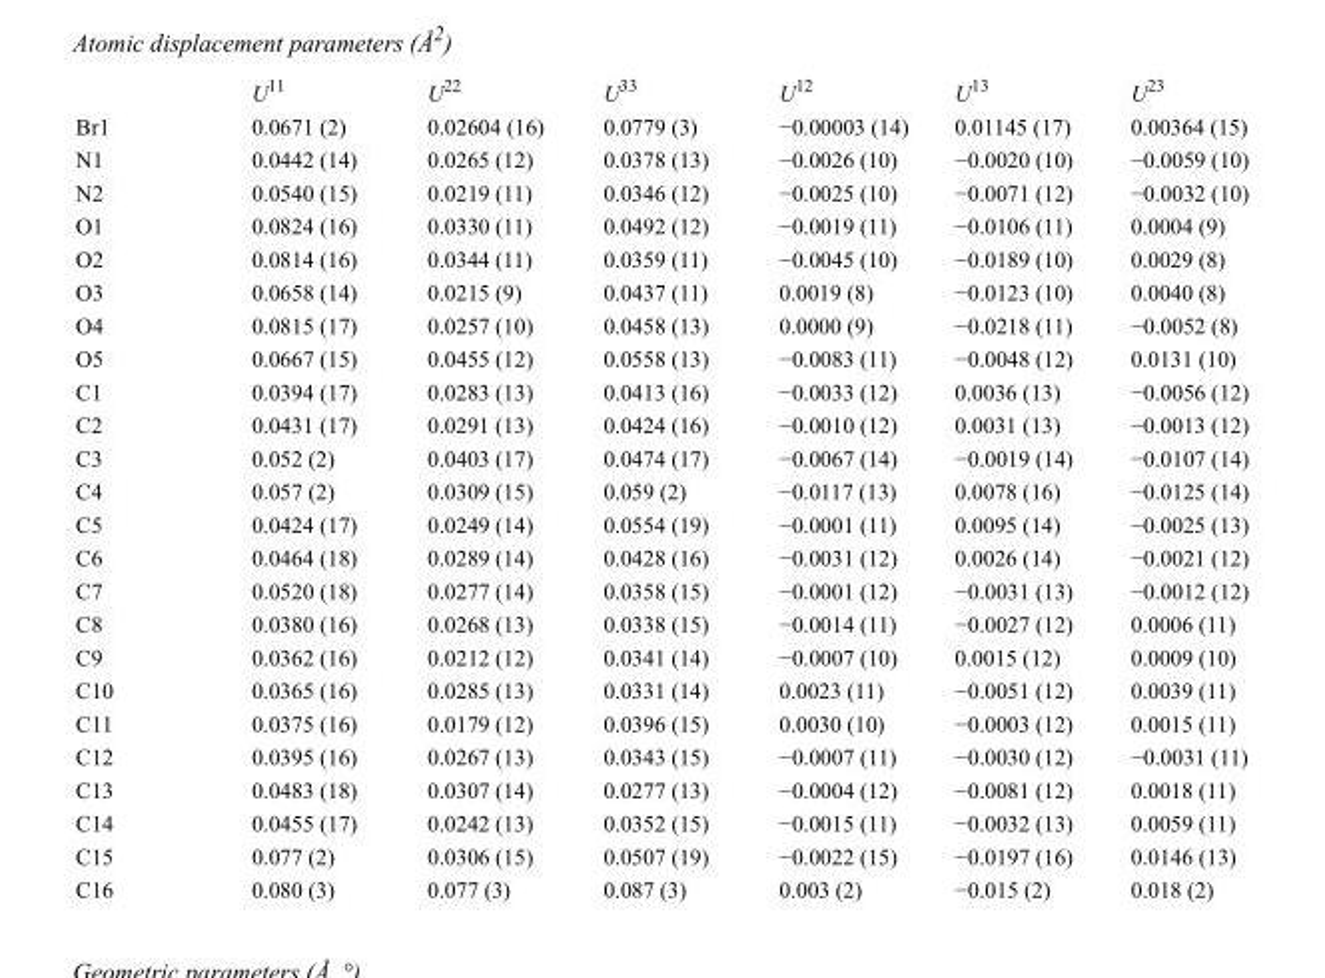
<table><thead><tr><td></td><td>U<sup>11</sup></td><td>U<sup>22</sup></td><td>U<sup>33</sup></td><td>U<sup>12</sup></td><td>U<sup>13</sup></td><td>U<sup>23</sup></td></tr></thead><tbody><tr><td>Br1</td><td>0.0671 (2)</td><td>0.02604 (16)</td><td>0.0779 (3)</td><td>−0.00003 (14)</td><td>0.01145 (17)</td><td>0.00364 (15)</td></tr><tr><td>N1</td><td>0.0442 (14)</td><td>0.0265 (12)</td><td>0.0378 (13)</td><td>−0.0026 (10)</td><td>−0.0020 (10)</td><td>−0.0059 (10)</td></tr><tr><td>N2</td><td>0.0540 (15)</td><td>0.0219 (11)</td><td>0.0346 (12)</td><td>−0.0025 (10)</td><td>−0.0071 (12)</td><td>−0.0032 (10)</td></tr><tr><td>O1</td><td>0.0824 (16)</td><td>0.0330 (11)</td><td>0.0492 (12)</td><td>−0.0019 (11)</td><td>−0.0106 (11)</td><td>0.0004 (9)</td></tr><tr><td>O2</td><td>0.0814 (16)</td><td>0.0344 (11)</td><td>0.0359 (11)</td><td>−0.0045 (10)</td><td>−0.0189 (10)</td><td>0.0029 (8)</td></tr><tr><td>O3</td><td>0.0658 (14)</td><td>0.0215 (9)</td><td>0.0437 (11)</td><td>0.0019 (8)</td><td>−0.0123 (10)</td><td>0.0040 (8)</td></tr><tr><td>O4</td><td>0.0815 (17)</td><td>0.0257 (10)</td><td>0.0458 (13)</td><td>0.0000 (9)</td><td>−0.0218 (11)</td><td>−0.0052 (8)</td></tr><tr><td>O5</td><td>0.0667 (15)</td><td>0.0455 (12)</td><td>0.0558 (13)</td><td>−0.0083 (11)</td><td>−0.0048 (12)</td><td>0.0131 (10)</td></tr><tr><td>C1</td><td>0.0394 (17)</td><td>0.0283 (13)</td><td>0.0413 (16)</td><td>−0.0033 (12)</td><td>0.0036 (13)</td><td>−0.0056 (12)</td></tr><tr><td>C2</td><td>0.0431 (17)</td><td>0.0291 (13)</td><td>0.0424 (16)</td><td>−0.0010 (12)</td><td>0.0031 (13)</td><td>−0.0013 (12)</td></tr><tr><td>C3</td><td>0.052 (2)</td><td>0.0403 (17)</td><td>0.0474 (17)</td><td>−0.0067 (14)</td><td>−0.0019 (14)</td><td>−0.0107 (14)</td></tr><tr><td>C4</td><td>0.057 (2)</td><td>0.0309 (15)</td><td>0.059 (2)</td><td>−0.0117 (13)</td><td>0.0078 (16)</td><td>−0.0125 (14)</td></tr><tr><td>C5</td><td>0.0424 (17)</td><td>0.0249 (14)</td><td>0.0554 (19)</td><td>−0.0001 (11)</td><td>0.0095 (14)</td><td>−0.0025 (13)</td></tr><tr><td>C6</td><td>0.0464 (18)</td><td>0.0289 (14)</td><td>0.0428 (16)</td><td>−0.0031 (12)</td><td>0.0026 (14)</td><td>−0.0021 (12)</td></tr><tr><td>C7</td><td>0.0520 (18)</td><td>0.0277 (14)</td><td>0.0358 (15)</td><td>−0.0001 (12)</td><td>−0.0031 (13)</td><td>−0.0012 (12)</td></tr><tr><td>C8</td><td>0.0380 (16)</td><td>0.0268 (13)</td><td>0.0338 (15)</td><td>−0.0014 (11)</td><td>−0.0027 (12)</td><td>0.0006 (11)</td></tr><tr><td>C9</td><td>0.0362 (16)</td><td>0.0212 (12)</td><td>0.0341 (14)</td><td>−0.0007 (10)</td><td>0.0015 (12)</td><td>0.0009 (10)</td></tr><tr><td>C10</td><td>0.0365 (16)</td><td>0.0285 (13)</td><td>0.0331 (14)</td><td>0.0023 (11)</td><td>−0.0051 (12)</td><td>0.0039 (11)</td></tr><tr><td>C11</td><td>0.0375 (16)</td><td>0.0179 (12)</td><td>0.0396 (15)</td><td>0.0030 (10)</td><td>−0.0003 (12)</td><td>0.0015 (11)</td></tr><tr><td>C12</td><td>0.0395 (16)</td><td>0.0267 (13)</td><td>0.0343 (15)</td><td>−0.0007 (11)</td><td>−0.0030 (12)</td><td>−0.0031 (11)</td></tr><tr><td>C13</td><td>0.0483 (18)</td><td>0.0307 (14)</td><td>0.0277 (13)</td><td>−0.0004 (12)</td><td>−0.0081 (12)</td><td>0.0018 (11)</td></tr><tr><td>C14</td><td>0.0455 (17)</td><td>0.0242 (13)</td><td>0.0352 (15)</td><td>−0.0015 (11)</td><td>−0.0032 (13)</td><td>0.0059 (11)</td></tr><tr><td>C15</td><td>0.077 (2)</td><td>0.0306 (15)</td><td>0.0507 (19)</td><td>−0.0022 (15)</td><td>−0.0197 (16)</td><td>0.0146 (13)</td></tr><tr><td>C16</td><td>0.080 (3)</td><td>0.077 (3)</td><td>0.087 (3)</td><td>0.003 (2)</td><td>−0.015 (2)</td><td>0.018 (2)</td></tr></tbody></table>